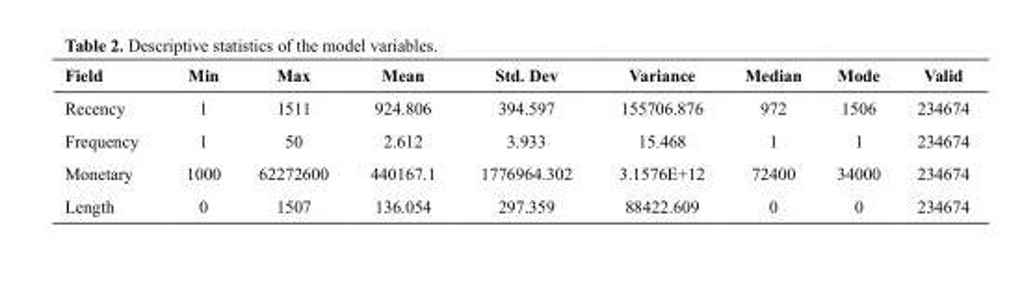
<table><thead><tr><td>Field</td><td>Min</td><td>Max</td><td>Mean</td><td>Std. Dev</td><td>Variance</td><td>Median</td><td>Mode</td><td>Valid</td></tr></thead><tbody><tr><td>Recency</td><td>1</td><td>1511</td><td>924.806</td><td>394.597</td><td>155706.876</td><td>972</td><td>1506</td><td>234674</td></tr><tr><td>Frequency</td><td>1</td><td>50</td><td>2.612</td><td>3.933</td><td>15.468</td><td>1</td><td>1</td><td>234674</td></tr><tr><td>Monetary</td><td>1000</td><td>62272600</td><td>440167.1</td><td>1776964.302</td><td>3.1576E+12</td><td>72400</td><td>34000</td><td>234674</td></tr><tr><td>Length</td><td>0</td><td>1507</td><td>136.054</td><td>297.359</td><td>88422.609</td><td>0</td><td>0</td><td>234674</td></tr></tbody></table>